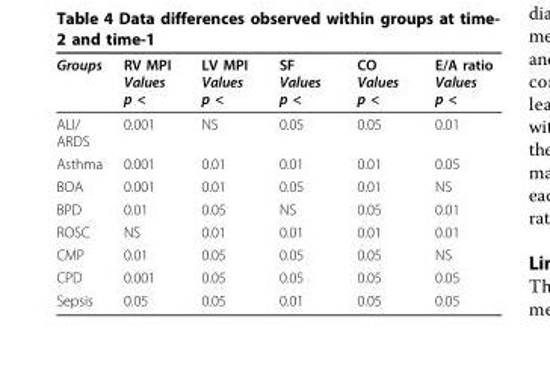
<table><thead><tr><td>Groups</td><td>RV MPI Values p &lt;</td><td>LV MPI Values p &lt;</td><td>SF Values p &lt;</td><td>CO Values p &lt;</td><td>E/A ratio Values p &lt;</td></tr></thead><tbody><tr><td>ALI/ ARDS</td><td>0.001</td><td>NS</td><td>0.05</td><td>0.05</td><td>0.01</td></tr><tr><td>Asthma</td><td>0.001</td><td>0.01</td><td>0.01</td><td>0.01</td><td>0.05</td></tr><tr><td>BOA</td><td>0.001</td><td>0.01</td><td>0.05</td><td>0.01</td><td>NS</td></tr><tr><td>BPD</td><td>0.01</td><td>0.05</td><td>NS</td><td>0.05</td><td>0.01</td></tr><tr><td>ROSC</td><td>NS</td><td>0.01</td><td>0.01</td><td>0.01</td><td>0.01</td></tr><tr><td>CMP</td><td>0.01</td><td>0.05</td><td>0.05</td><td>0.05</td><td>NS</td></tr><tr><td>CPD</td><td>0.001</td><td>0.05</td><td>0.05</td><td>0.05</td><td>0.05</td></tr><tr><td>Sepsis</td><td>0.05</td><td>0.05</td><td>0.01</td><td>0.05</td><td>0.05</td></tr></tbody></table>